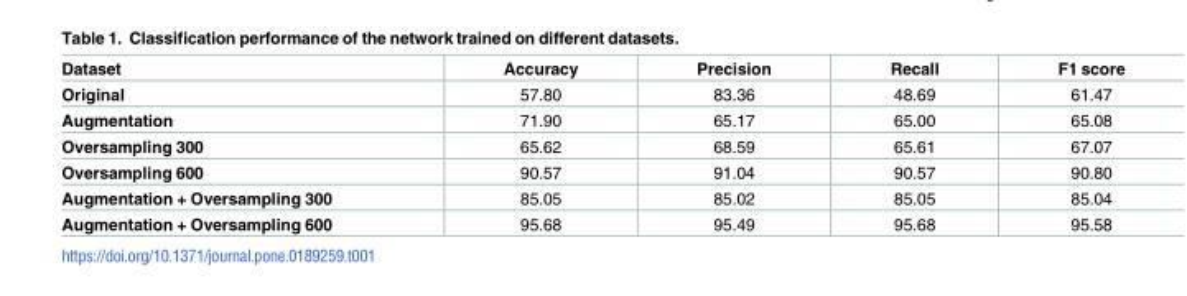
<table><thead><tr><td>Dataset</td><td>Accuracy</td><td>Precision</td><td>Recall</td><td>F1 score</td></tr></thead><tbody><tr><td>Original</td><td>57.80</td><td>83.36</td><td>48.69</td><td>61.47</td></tr><tr><td>Augmentation</td><td>71.90</td><td>65.17</td><td>65.00</td><td>65.08</td></tr><tr><td>Oversampling 300</td><td>65.62</td><td>68.59</td><td>65.61</td><td>67.07</td></tr><tr><td>Oversampling 600</td><td>90.57</td><td>91.04</td><td>90.57</td><td>90.80</td></tr><tr><td>Augmentation + Oversampling 300</td><td>85.05</td><td>85.02</td><td>85.05</td><td>85.04</td></tr><tr><td>Augmentation + Oversampling 600</td><td>95.68</td><td>95.49</td><td>95.68</td><td>95.58</td></tr></tbody></table>